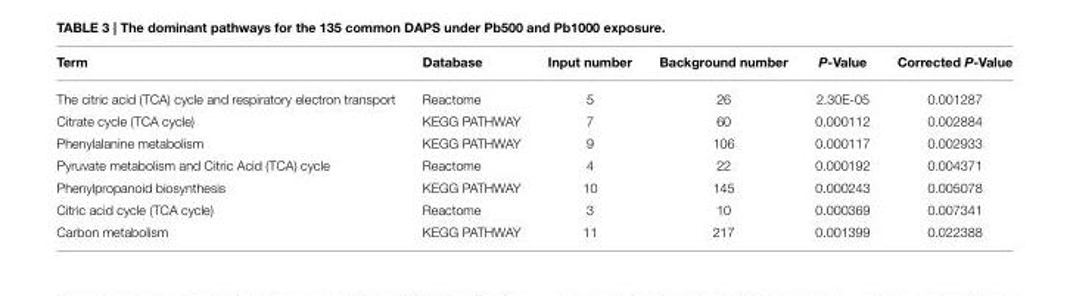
<table><thead><tr><td>Term</td><td>Database</td><td>Input number</td><td>Background number</td><td>P-Value</td><td>Corrected P-Value</td></tr></thead><tbody><tr><td>The citric acid (TCA) cycle and respiratory electron transport</td><td>Reactome</td><td>5</td><td>26</td><td>2.30E-05</td><td>0.001287</td></tr><tr><td>Citrate cycle (TCA cycle)</td><td>KEGG PATHWAY</td><td>7</td><td>60</td><td>0.000112</td><td>0.002884</td></tr><tr><td>Phenylalanine metabolism</td><td>KEGG PATHWAY</td><td>9</td><td>106</td><td>0.000117</td><td>0.002933</td></tr><tr><td>Pyruvate metabolism and Citric Acid (TCA) cycle</td><td>Reactome</td><td>4</td><td>22</td><td>0.000192</td><td>0.004371</td></tr><tr><td>Phenylpropanoid biosynthesis</td><td>KEGG PATHWAY</td><td>10</td><td>145</td><td>0.000243</td><td>0.005078</td></tr><tr><td>Citric acid cycle (TCA cycle)</td><td>Reactome</td><td>3</td><td>10</td><td>0.000369</td><td>0.007341</td></tr><tr><td>Carbon metabolism</td><td>KEGG PATHWAY</td><td>11</td><td>217</td><td>0.001399</td><td>0.022388</td></tr></tbody></table>